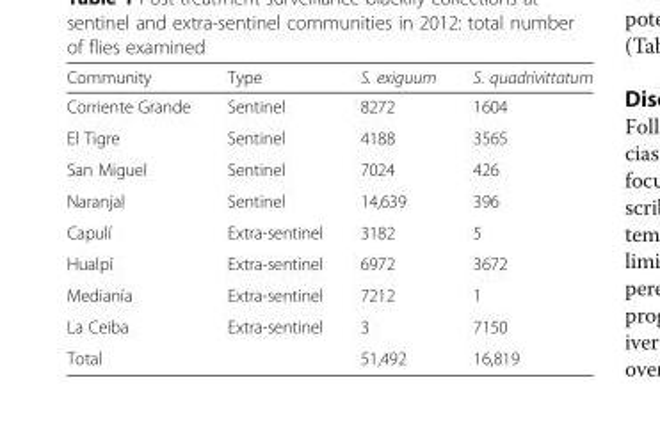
<table><thead><tr><td>Community</td><td>Type</td><td>S. exiguum</td><td>S. quadrivittatum</td></tr></thead><tbody><tr><td>Corriente Grande</td><td>Sentinel</td><td>8272</td><td>1604</td></tr><tr><td>El Tigre</td><td>Sentinel</td><td>4188</td><td>3565</td></tr><tr><td>San Miguel</td><td>Sentinel</td><td>7024</td><td>426</td></tr><tr><td>Naranjal</td><td>Sentinel</td><td>14,639</td><td>396</td></tr><tr><td>Capulí</td><td>Extra-sentinel</td><td>3182</td><td>5</td></tr><tr><td>Hualpí</td><td>Extra-sentinel</td><td>6972</td><td>3672</td></tr><tr><td>Medianía</td><td>Extra-sentinel</td><td>7212</td><td>1</td></tr><tr><td>La Ceiba</td><td>Extra-sentinel</td><td>3</td><td>7150</td></tr><tr><td>Total</td><td></td><td>51,492</td><td>16,819</td></tr></tbody></table>